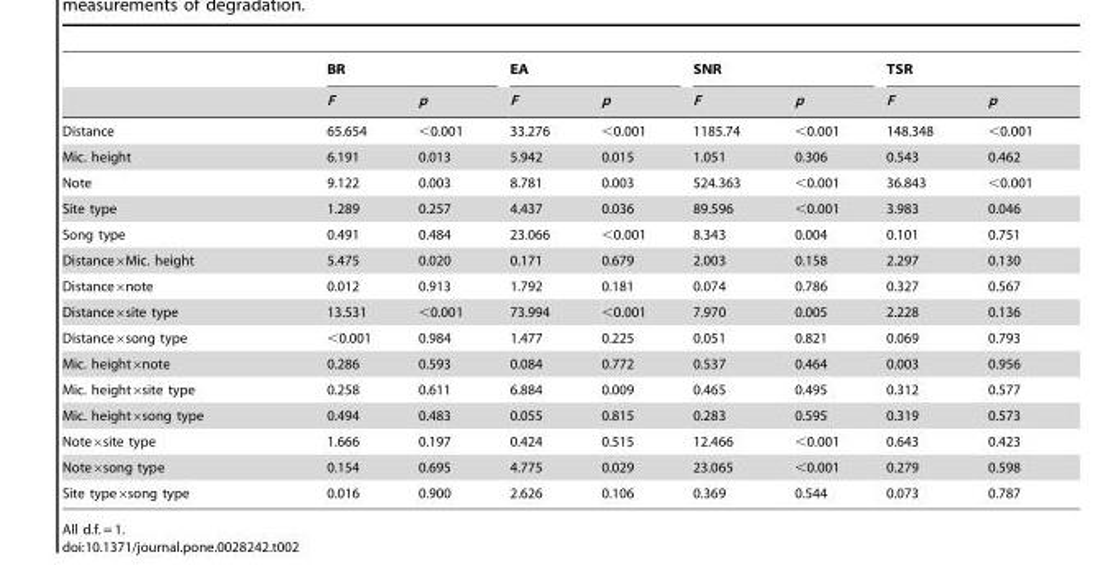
<table><thead><tr><td rowspan="2"></td><td colspan="2">BR</td><td colspan="2">EA</td><td colspan="2">SNR</td><td colspan="2">TSR</td></tr><tr><td>F</td><td>p</td><td>F</td><td>p</td><td>F</td><td>p</td><td>F</td><td>p</td></tr></thead><tbody><tr><td>Distance</td><td>65.654</td><td>&lt;0.001</td><td>33.276</td><td>&lt;0.001</td><td>1185.74</td><td>&lt;0.001</td><td>148.348</td><td>&lt;0.001</td></tr><tr><td>Mic. height</td><td>6.191</td><td>0.013</td><td>5.942</td><td>0.015</td><td>1.051</td><td>0.306</td><td>0.543</td><td>0.462</td></tr><tr><td>Note</td><td>9.122</td><td>0.003</td><td>8.781</td><td>0.003</td><td>524.363</td><td>&lt;0.001</td><td>36.843</td><td>&lt;0.001</td></tr><tr><td>Site type</td><td>1.289</td><td>0.257</td><td>4.437</td><td>0.036</td><td>89.596</td><td>&lt;0.001</td><td>3.983</td><td>0.046</td></tr><tr><td>Song type</td><td>0.491</td><td>0.484</td><td>23.066</td><td>&lt;0.001</td><td>8.343</td><td>0.004</td><td>0.101</td><td>0.751</td></tr><tr><td>Distance×Mic. height</td><td>5.475</td><td>0.020</td><td>0.171</td><td>0.679</td><td>2.003</td><td>0.158</td><td>2.297</td><td>0.130</td></tr><tr><td>Distance×note</td><td>0.012</td><td>0.913</td><td>1.792</td><td>0.181</td><td>0.074</td><td>0.786</td><td>0.327</td><td>0.567</td></tr><tr><td>Distance×site type</td><td>13.531</td><td>&lt;0.001</td><td>73.994</td><td>&lt;0.001</td><td>7.970</td><td>0.005</td><td>2.228</td><td>0.136</td></tr><tr><td>Distance×song type</td><td>&lt;0.001</td><td>0.984</td><td>1.477</td><td>0.225</td><td>0.051</td><td>0.821</td><td>0.069</td><td>0.793</td></tr><tr><td>Mic. height×note</td><td>0.286</td><td>0.593</td><td>0.084</td><td>0.772</td><td>0.537</td><td>0.464</td><td>0.003</td><td>0.956</td></tr><tr><td>Mic. height×site type</td><td>0.258</td><td>0.611</td><td>6.884</td><td>0.009</td><td>0.465</td><td>0.495</td><td>0.312</td><td>0.577</td></tr><tr><td>Mic. height×song type</td><td>0.494</td><td>0.483</td><td>0.055</td><td>0.815</td><td>0.283</td><td>0.595</td><td>0.319</td><td>0.573</td></tr><tr><td>Note×site type</td><td>1.666</td><td>0.197</td><td>0.424</td><td>0.515</td><td>12.466</td><td>&lt;0.001</td><td>0.643</td><td>0.423</td></tr><tr><td>Note×song type</td><td>0.154</td><td>0.695</td><td>4.775</td><td>0.029</td><td>23.065</td><td>&lt;0.001</td><td>0.279</td><td>0.598</td></tr><tr><td>Site type×song type</td><td>0.016</td><td>0.900</td><td>2.626</td><td>0.106</td><td>0.369</td><td>0.544</td><td>0.073</td><td>0.787</td></tr></tbody></table>